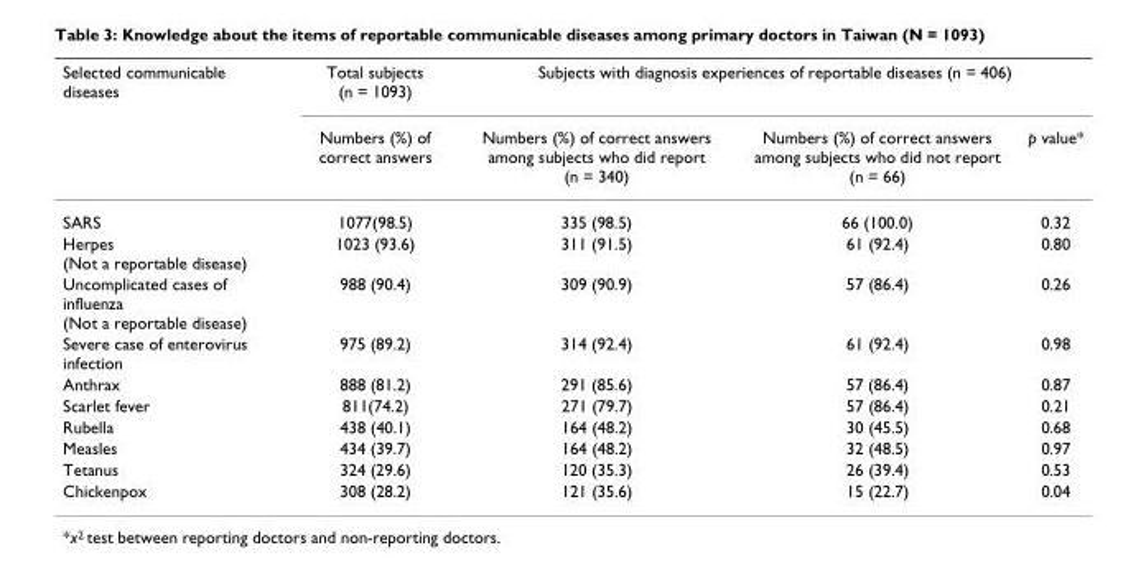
<table><thead><tr><td rowspan="2">Selected communicable diseases</td><td rowspan="2">Total subjects (n = 1093) Numbers (%) of correct answers</td><td colspan="3">Subjects with diagnosis experiences of reportable diseases (n = 406)</td></tr><tr><td>Numbers (%) of correct answers among subjects who did report (n = 340)</td><td>Numbers (%) of correct answers among subjects who did not report (n = 66)</td><td>p value*</td></tr></thead><tbody><tr><td>SARS</td><td>1077(98.5)</td><td>335 (98.5)</td><td>66 (100.0)</td><td>0.32</td></tr><tr><td>Herpes (Not a reportable disease)</td><td>1023 (93.6)</td><td>311 (91.5)</td><td>61 (92.4)</td><td>0.80</td></tr><tr><td>Uncomplicated cases of influenza (Not a reportable disease)</td><td>988 (90.4)</td><td>309 (90.9)</td><td>57 (86.4)</td><td>0.26</td></tr><tr><td>Severe case of enterovirus infection</td><td>975 (89.2)</td><td>314 (92.4)</td><td>61 (92.4)</td><td>0.98</td></tr><tr><td>Anthrax</td><td>888 (81.2)</td><td>291 (85.6)</td><td>57 (86.4)</td><td>0.87</td></tr><tr><td>Scarlet fever</td><td>811(74.2)</td><td>271 (79.7)</td><td>57 (86.4)</td><td>0.21</td></tr><tr><td>Rubella</td><td>438 (40.1)</td><td>164 (48.2)</td><td>30 (45.5)</td><td>0.68</td></tr><tr><td>Measles</td><td>434 (39.7)</td><td>164 (48.2)</td><td>32 (48.5)</td><td>0.97</td></tr><tr><td>Tetanus</td><td>324 (29.6)</td><td>120 (35.3)</td><td>26 (39.4)</td><td>0.53</td></tr><tr><td>Chickenpox</td><td>308 (28.2)</td><td>121 (35.6)</td><td>15 (22.7)</td><td>0.04</td></tr></tbody></table>